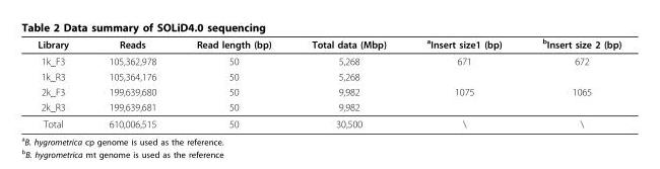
<table><thead><tr><td>Library</td><td>Reads</td><td>Read length (bp)</td><td>Total data (Mbp)</td><td><sup>a</sup>Insert size1 (bp)</td><td><sup>b</sup>Insert size 2 (bp)</td></tr></thead><tbody><tr><td>1k_F3</td><td>105,362,978</td><td>50</td><td>5,268</td><td>671</td><td>672</td></tr><tr><td>1k_R3</td><td>105,364,176</td><td>50</td><td>5,268</td><td></td><td></td></tr><tr><td>2k_F3</td><td>199,639,680</td><td>50</td><td>9,982</td><td>1075</td><td>1065</td></tr><tr><td>2k_R3</td><td>199,639,681</td><td>50</td><td>9,982</td><td></td><td></td></tr><tr><td>Total</td><td>610,006,515</td><td>50</td><td>30,500</td><td>\</td><td>\</td></tr></tbody></table>